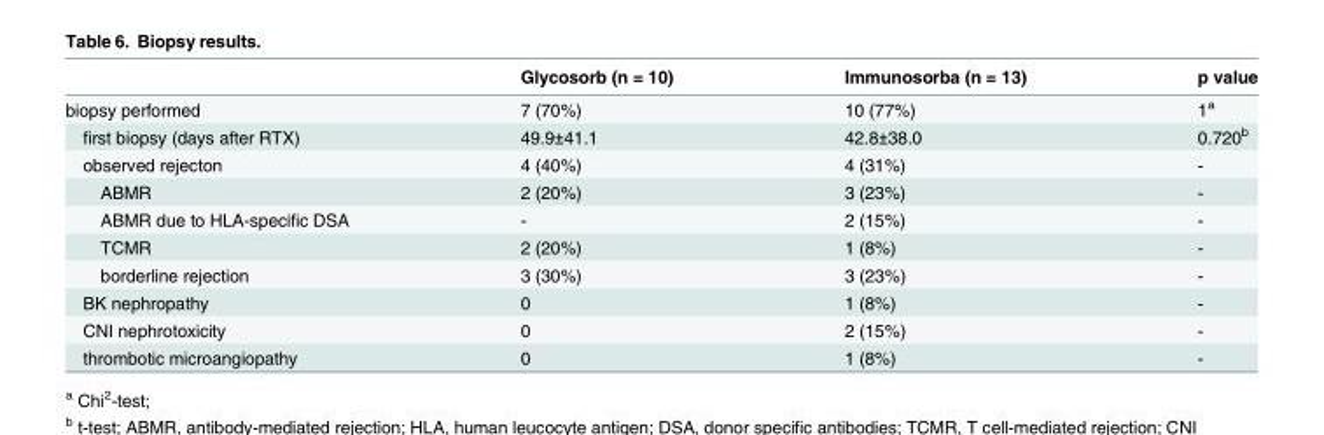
<table><thead><tr><td></td><td>Glycosorb (n = 10)</td><td>Immunosorba (n = 13)</td><td>p value</td></tr></thead><tbody><tr><td>biopsy performed</td><td>7 (70%)</td><td>10 (77%)</td><td>1<sup>a</sup></td></tr><tr><td>first biopsy (days after RTX)</td><td>49.9±41.1</td><td>42.8±38.0</td><td>0.720<sup>b</sup></td></tr><tr><td>observed rejecton</td><td>4 (40%)</td><td>4 (31%)</td><td>-</td></tr><tr><td>ABMR</td><td>2 (20%)</td><td>3 (23%)</td><td>-</td></tr><tr><td>ABMR due to HLA-specific DSA</td><td>-</td><td>2 (15%)</td><td>-</td></tr><tr><td>TCMR</td><td>2 (20%)</td><td>1 (8%)</td><td>-</td></tr><tr><td>borderline rejection</td><td>3 (30%)</td><td>3 (23%)</td><td>-</td></tr><tr><td>BK nephropathy</td><td>0</td><td>1 (8%)</td><td>-</td></tr><tr><td>CNI nephrotoxicity</td><td>0</td><td>2 (15%)</td><td>-</td></tr><tr><td>thrombotic microangiopathy</td><td>0</td><td>1 (8%)</td><td>-</td></tr></tbody></table>